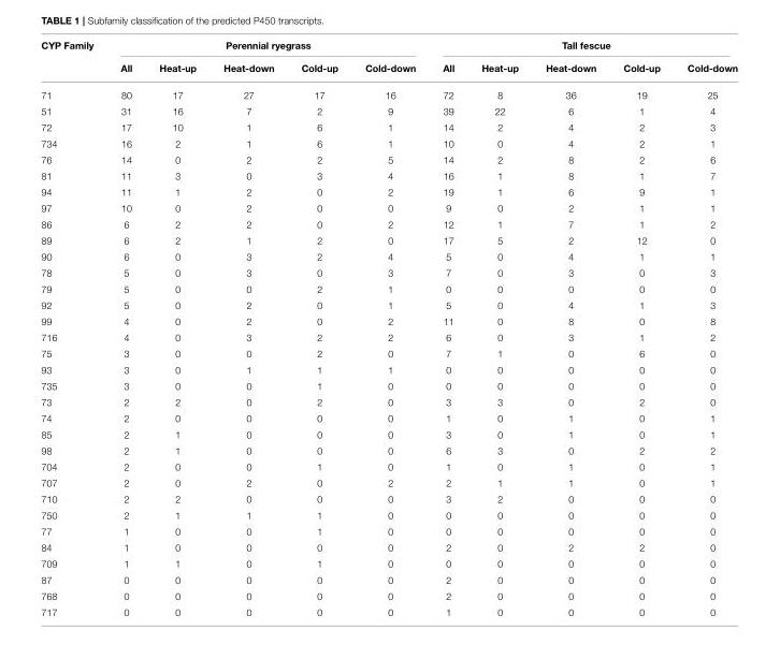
<table><thead><tr><td rowspan="2">CYP Family</td><td colspan="5">Perennial ryegrass</td><td colspan="5">Tall fescue</td></tr><tr><td>All</td><td>Heat-up</td><td>Heat-down</td><td>Cold-up</td><td>Cold-down</td><td>All</td><td>Heat-up</td><td>Heat-down</td><td>Cold-up</td><td>Cold-down</td></tr></thead><tbody><tr><td>71</td><td>80</td><td>17</td><td>27</td><td>17</td><td>16</td><td>72</td><td>8</td><td>36</td><td>19</td><td>25</td></tr><tr><td>51</td><td>31</td><td>16</td><td>7</td><td>2</td><td>9</td><td>39</td><td>22</td><td>6</td><td>1</td><td>4</td></tr><tr><td>72</td><td>17</td><td>10</td><td>1</td><td>6</td><td>1</td><td>14</td><td>2</td><td>4</td><td>2</td><td>3</td></tr><tr><td>734</td><td>16</td><td>2</td><td>1</td><td>6</td><td>1</td><td>10</td><td>0</td><td>4</td><td>2</td><td>1</td></tr><tr><td>76</td><td>14</td><td>0</td><td>2</td><td>2</td><td>5</td><td>14</td><td>2</td><td>8</td><td>2</td><td>6</td></tr><tr><td>81</td><td>11</td><td>3</td><td>0</td><td>3</td><td>4</td><td>16</td><td>1</td><td>8</td><td>1</td><td>7</td></tr><tr><td>94</td><td>11</td><td>1</td><td>2</td><td>0</td><td>2</td><td>19</td><td>1</td><td>6</td><td>9</td><td>1</td></tr><tr><td>97</td><td>10</td><td>0</td><td>2</td><td>0</td><td>0</td><td>9</td><td>0</td><td>2</td><td>1</td><td>1</td></tr><tr><td>86</td><td>6</td><td>2</td><td>2</td><td>0</td><td>2</td><td>12</td><td>1</td><td>7</td><td>1</td><td>2</td></tr><tr><td>89</td><td>6</td><td>2</td><td>1</td><td>2</td><td>0</td><td>17</td><td>5</td><td>2</td><td>12</td><td>0</td></tr><tr><td>90</td><td>6</td><td>0</td><td>3</td><td>2</td><td>4</td><td>5</td><td>0</td><td>4</td><td>1</td><td>1</td></tr><tr><td>78</td><td>5</td><td>0</td><td>3</td><td>0</td><td>3</td><td>7</td><td>0</td><td>3</td><td>0</td><td>3</td></tr><tr><td>79</td><td>5</td><td>0</td><td>0</td><td>2</td><td>1</td><td>0</td><td>0</td><td>0</td><td>0</td><td>0</td></tr><tr><td>92</td><td>5</td><td>0</td><td>2</td><td>0</td><td>1</td><td>5</td><td>0</td><td>4</td><td>1</td><td>3</td></tr><tr><td>99</td><td>4</td><td>0</td><td>2</td><td>0</td><td>2</td><td>11</td><td>0</td><td>8</td><td>0</td><td>8</td></tr><tr><td>716</td><td>4</td><td>0</td><td>3</td><td>2</td><td>2</td><td>6</td><td>0</td><td>3</td><td>1</td><td>2</td></tr><tr><td>75</td><td>3</td><td>0</td><td>0</td><td>2</td><td>0</td><td>7</td><td>1</td><td>0</td><td>6</td><td>0</td></tr><tr><td>93</td><td>3</td><td>0</td><td>1</td><td>1</td><td>1</td><td>0</td><td>0</td><td>0</td><td>0</td><td>0</td></tr><tr><td>735</td><td>3</td><td>0</td><td>0</td><td>1</td><td>0</td><td>0</td><td>0</td><td>0</td><td>0</td><td>0</td></tr><tr><td>73</td><td>2</td><td>2</td><td>0</td><td>2</td><td>0</td><td>3</td><td>3</td><td>0</td><td>2</td><td>0</td></tr><tr><td>74</td><td>2</td><td>0</td><td>0</td><td>0</td><td>0</td><td>1</td><td>0</td><td>1</td><td>0</td><td>1</td></tr><tr><td>85</td><td>2</td><td>1</td><td>0</td><td>0</td><td>0</td><td>3</td><td>0</td><td>1</td><td>0</td><td>1</td></tr><tr><td>98</td><td>2</td><td>1</td><td>0</td><td>0</td><td>0</td><td>6</td><td>3</td><td>0</td><td>2</td><td>2</td></tr><tr><td>704</td><td>2</td><td>0</td><td>0</td><td>1</td><td>0</td><td>1</td><td>0</td><td>1</td><td>0</td><td>1</td></tr><tr><td>707</td><td>2</td><td>0</td><td>2</td><td>0</td><td>2</td><td>2</td><td>1</td><td>1</td><td>0</td><td>1</td></tr><tr><td>710</td><td>2</td><td>2</td><td>0</td><td>0</td><td>0</td><td>3</td><td>2</td><td>0</td><td>0</td><td>0</td></tr><tr><td>750</td><td>2</td><td>1</td><td>1</td><td>1</td><td>0</td><td>0</td><td>0</td><td>0</td><td>0</td><td>0</td></tr><tr><td>77</td><td>1</td><td>0</td><td>0</td><td>1</td><td>0</td><td>0</td><td>0</td><td>0</td><td>0</td><td>0</td></tr><tr><td>84</td><td>1</td><td>0</td><td>0</td><td>0</td><td>0</td><td>2</td><td>0</td><td>2</td><td>2</td><td>0</td></tr><tr><td>709</td><td>1</td><td>1</td><td>0</td><td>1</td><td>0</td><td>0</td><td>0</td><td>0</td><td>0</td><td>0</td></tr><tr><td>87</td><td>0</td><td>0</td><td>0</td><td>0</td><td>0</td><td>2</td><td>0</td><td>0</td><td>0</td><td>0</td></tr><tr><td>768</td><td>0</td><td>0</td><td>0</td><td>0</td><td>0</td><td>2</td><td>0</td><td>0</td><td>0</td><td>0</td></tr><tr><td>717</td><td>0</td><td>0</td><td>0</td><td>0</td><td>0</td><td>1</td><td>0</td><td>0</td><td>0</td><td>0</td></tr></tbody></table>